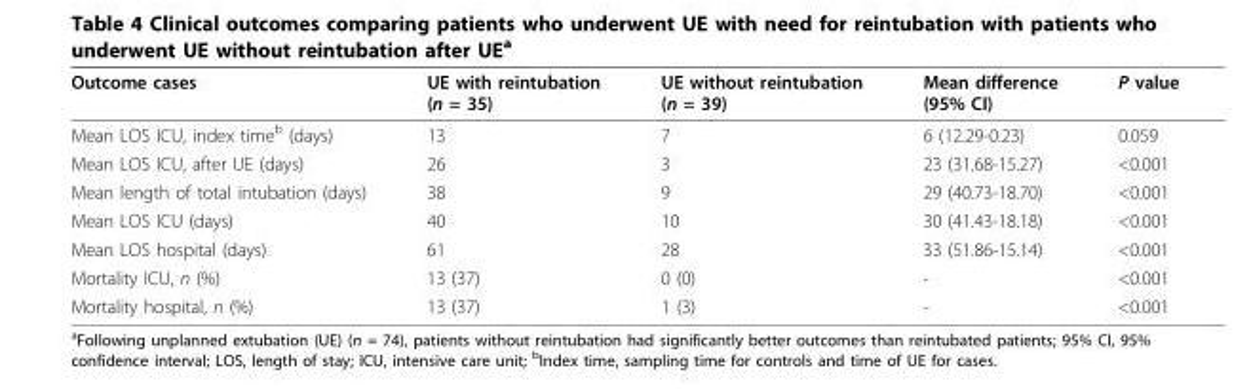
<table><thead><tr><td>Outcome cases</td><td>UE with reintubation (n = 35)</td><td>UE without reintubation (n = 39)</td><td>Mean difference (95% CI)</td><td>P value</td></tr></thead><tbody><tr><td>Mean LOS ICU, index time<sup>b</sup> (days)</td><td>13</td><td>7</td><td>6 (12.29-0.23)</td><td>0.059</td></tr><tr><td>Mean LOS ICU, after UE (days)</td><td>26</td><td>3</td><td>23 (31.68-15.27)</td><td>&lt;0.001</td></tr><tr><td>Mean length of total intubation (days)</td><td>38</td><td>9</td><td>29 (40.73-18.70)</td><td>&lt;0.001</td></tr><tr><td>Mean LOS ICU (days)</td><td>40</td><td>10</td><td>30 (41.43-18.18)</td><td>&lt;0.001</td></tr><tr><td>Mean LOS hospital (days)</td><td>61</td><td>28</td><td>33 (51.86-15.14)</td><td>&lt;0.001</td></tr><tr><td>Mortality ICU, n (%)</td><td>13 (37)</td><td>0 (0)</td><td>-</td><td>&lt;0.001</td></tr><tr><td>Mortality hospital, n (%)</td><td>13 (37)</td><td>1 (3)</td><td>-</td><td>&lt;0.001</td></tr></tbody></table>